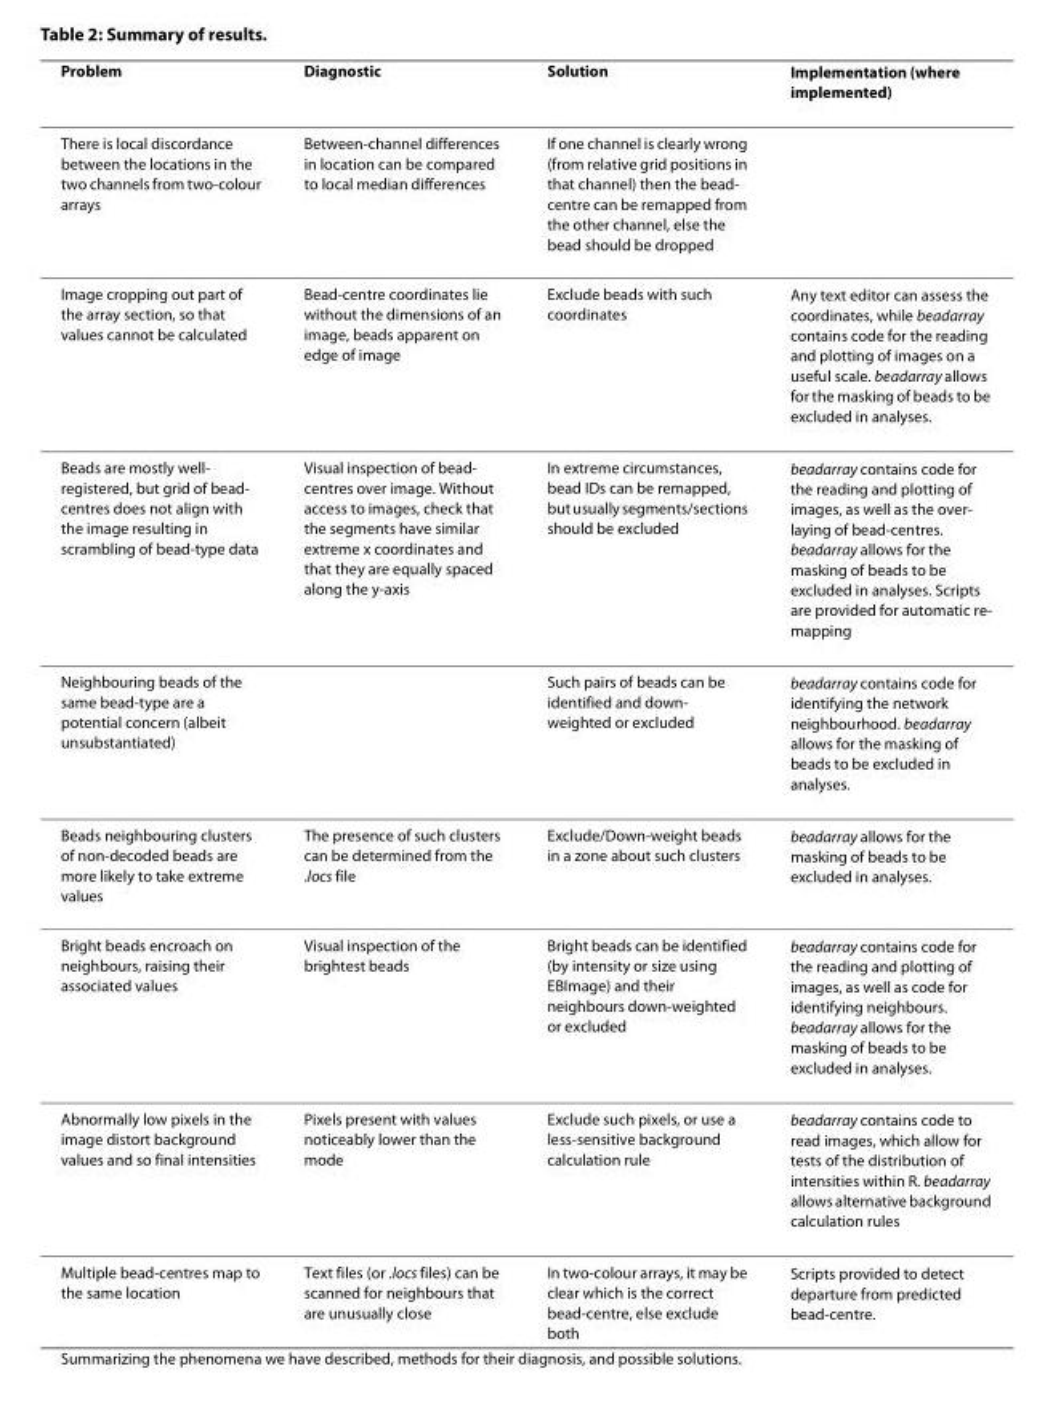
<table><thead><tr><td>Problem</td><td>Diagnostic</td><td>Solution</td><td>Implementation (where implemented)</td></tr></thead><tbody><tr><td>There is local discordance between the locations in the two channels from two-colour arrays</td><td>Between-channel differences in location can be compared to local median differences</td><td>If one channel is clearly wrong (from relative grid positions in that channel) then the bead- centre can be remapped from the other channel, else the bead should be dropped</td><td></td></tr><tr><td>Image cropping out part of the array section, so that values cannot be calculated</td><td>Bead-centre coordinates lie without the dimensions of an image, beads apparent on edge of image</td><td>Exclude beads with such coordinates</td><td>Any text editor can assess the coordinates, while beadarray contains code for the reading and plotting of images on a useful scale. beadarray allows for the masking of beads to be excluded in analyses.</td></tr><tr><td>Beads are mostly well- registered, but grid of bead- centres does not align with the image resulting in scrambling of bead-type data</td><td>Visual inspection of bead- centres over image. Without access to images, check that the segments have similar extreme x coordinates and that they are equally spaced along the y-axis</td><td>In extreme circumstances, bead IDs can be remapped, but usually segments/sections should be excluded</td><td>beadarray contains code for the reading and plotting of images, as well as the over- laying of bead-centres. beadarray allows for the masking of beads to be excluded in analyses. Scripts are provided for automatic re- mapping</td></tr><tr><td>Neighbouring beads of the same bead-type are a potential concern (albeit unsubstantiated)</td><td></td><td>Such pairs of beads can be identified and down- weighted or excluded</td><td>beadarray contains code for identifying the network neighbourhood. beadarray allows for the masking of beads to be excluded in analyses.</td></tr><tr><td>Beads neighbouring clusters of non-decoded beads are more likely to take extreme values</td><td>The presence of such clusters can be determined from the .locs file</td><td>Exclude/Down-weight beads in a zone about such clusters</td><td>beadarray allows for the masking of beads to be excluded in analyses.</td></tr><tr><td>Bright beads encroach on neighbours, raising their associated values</td><td>Visual inspection of the brightest beads</td><td>Bright beads can be identified (by intensity or size using EBImage) and their neighbours down-weighted or excluded</td><td>beadarray contains code for the reading and plotting of images, as well as code for identifying neighbours. beadarray allows for the masking of beads to be excluded in analyses.</td></tr><tr><td>Abnormally low pixels in the image distort background values and so final intensities</td><td>Pixels present with values noticeably lower than the mode</td><td>Exclude such pixels, or use a less-sensitive background calculation rule</td><td>beadarray contains code to read images, which allow for tests of the distribution of intensities within R. beadarray allows alternative background calculation rules</td></tr><tr><td>Multiple bead-centres map to the same location</td><td>Text files (or .locs files) can be scanned for neighbours that are unusually close</td><td>In two-colour arrays, it may be clear which is the correct bead-centre, else exclude both</td><td>Scripts provided to detect departure from predicted bead-centre.</td></tr></tbody></table>